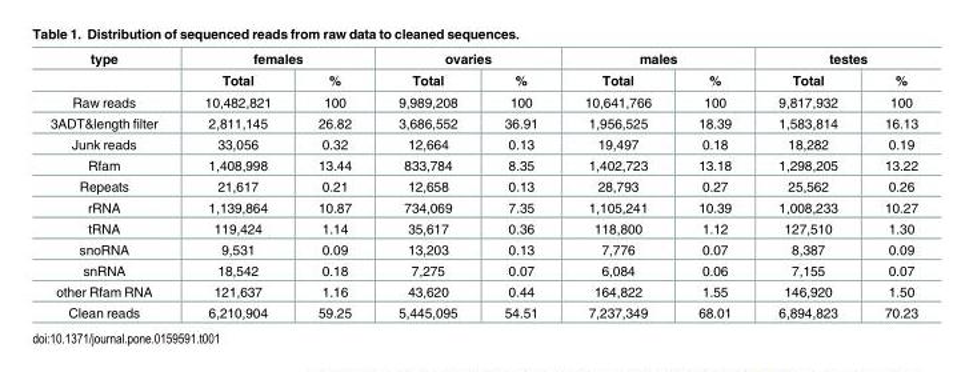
<table><thead><tr><td rowspan="2">type</td><td colspan="2">females</td><td colspan="2">ovaries</td><td colspan="2">males</td><td colspan="2">testes</td></tr><tr><td>Total</td><td>%</td><td>Total</td><td>%</td><td>Total</td><td>%</td><td>Total</td><td>%</td></tr></thead><tbody><tr><td>Raw reads</td><td>10,482,821</td><td>100</td><td>9,989,208</td><td>100</td><td>10,641,766</td><td>100</td><td>9,817,932</td><td>100</td></tr><tr><td>3ADT&amp;length filter</td><td>2,811,145</td><td>26.82</td><td>3,686,552</td><td>36.91</td><td>1,956,525</td><td>18.39</td><td>1,583,814</td><td>16.13</td></tr><tr><td>Junk reads</td><td>33,056</td><td>0.32</td><td>12,664</td><td>0.13</td><td>19,497</td><td>0.18</td><td>18,282</td><td>0.19</td></tr><tr><td>Rfam</td><td>1,408,998</td><td>13.44</td><td>833,784</td><td>8.35</td><td>1,402,723</td><td>13.18</td><td>1,298,205</td><td>13.22</td></tr><tr><td>Repeats</td><td>21,617</td><td>0.21</td><td>12,658</td><td>0.13</td><td>28,793</td><td>0.27</td><td>25,562</td><td>0.26</td></tr><tr><td>rRNA</td><td>1,139,864</td><td>10.87</td><td>734,069</td><td>7.35</td><td>1,105,241</td><td>10.39</td><td>1,008,233</td><td>10.27</td></tr><tr><td>tRNA</td><td>119,424</td><td>1.14</td><td>35,617</td><td>0.36</td><td>118,800</td><td>1.12</td><td>127,510</td><td>1.30</td></tr><tr><td>snoRNA</td><td>9,531</td><td>0.09</td><td>13,203</td><td>0.13</td><td>7,776</td><td>0.07</td><td>8,387</td><td>0.09</td></tr><tr><td>snRNA</td><td>18,542</td><td>0.18</td><td>7,275</td><td>0.07</td><td>6,084</td><td>0.06</td><td>7,155</td><td>0.07</td></tr><tr><td>other Rfam RNA</td><td>121,637</td><td>1.16</td><td>43,620</td><td>0.44</td><td>164,822</td><td>1.55</td><td>146,920</td><td>1.50</td></tr><tr><td>Clean reads</td><td>6,210,904</td><td>59.25</td><td>5,445,095</td><td>54.51</td><td>7,237,349</td><td>68.01</td><td>6,894,823</td><td>70.23</td></tr></tbody></table>